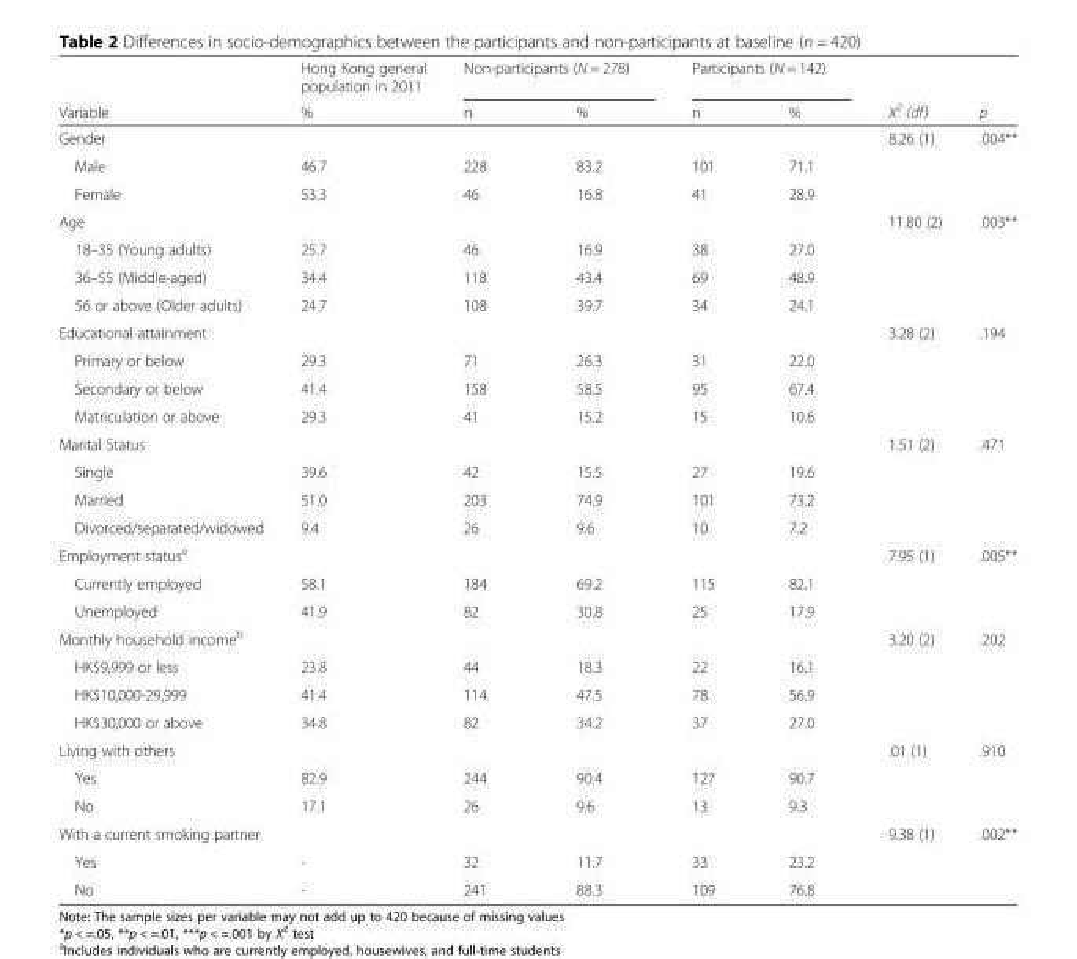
<table><thead><tr><td rowspan="2">Variable</td><td rowspan="2">Hong Kong general population in 2011 %</td><td colspan="2">Non-participants (N = 278)</td><td colspan="2">Participants (N = 142)</td><td rowspan="2">X<sup>2</sup> (df)</td><td rowspan="2">p</td></tr><tr><td>n</td><td>%</td><td>n</td><td>%</td></tr></thead><tbody><tr><td>Gender</td><td></td><td></td><td></td><td></td><td></td><td>8.26 (1)</td><td>.004**</td></tr><tr><td>Male</td><td>46.7</td><td>228</td><td>83.2</td><td>101</td><td>71.1</td><td></td><td></td></tr><tr><td>Female</td><td>53.3</td><td>46</td><td>16.8</td><td>41</td><td>28.9</td><td></td><td></td></tr><tr><td>Age</td><td></td><td></td><td></td><td></td><td></td><td>11.80 (2)</td><td>.003**</td></tr><tr><td>18–35 (Young adults)</td><td>25.7</td><td>46</td><td>16.9</td><td>38</td><td>27.0</td><td></td><td></td></tr><tr><td>36–55 (Middle-aged)</td><td>34.4</td><td>118</td><td>43.4</td><td>69</td><td>48.9</td><td></td><td></td></tr><tr><td>56 or above (Older adults)</td><td>24.7</td><td>108</td><td>39.7</td><td>34</td><td>24.1</td><td></td><td></td></tr><tr><td>Educational attainment</td><td></td><td></td><td></td><td></td><td></td><td>3.28 (2)</td><td>.194</td></tr><tr><td>Primary or below</td><td>29.3</td><td>71</td><td>26.3</td><td>31</td><td>22.0</td><td></td><td></td></tr><tr><td>Secondary or below</td><td>41.4</td><td>158</td><td>58.5</td><td>95</td><td>67.4</td><td></td><td></td></tr><tr><td>Matriculation or above</td><td>29.3</td><td>41</td><td>15.2</td><td>15</td><td>10.6</td><td></td><td></td></tr><tr><td>Marital Status</td><td></td><td></td><td></td><td></td><td></td><td>1.51 (2)</td><td>.471</td></tr><tr><td>Single</td><td>39.6</td><td>42</td><td>15.5</td><td>27</td><td>19.6</td><td></td><td></td></tr><tr><td>Married</td><td>51.0</td><td>203</td><td>74.9</td><td>101</td><td>73.2</td><td></td><td></td></tr><tr><td>Divorced/separated/widowed</td><td>9.4</td><td>26</td><td>9.6</td><td>10</td><td>7.2</td><td></td><td></td></tr><tr><td>Employment status<sup>a</sup></td><td></td><td></td><td></td><td></td><td></td><td>7.95 (1)</td><td>.005**</td></tr><tr><td>Currently employed</td><td>58.1</td><td>184</td><td>69.2</td><td>115</td><td>82.1</td><td></td><td></td></tr><tr><td>Unemployed</td><td>41.9</td><td>82</td><td>30.8</td><td>25</td><td>17.9</td><td></td><td></td></tr><tr><td>Monthly household income<sup>b</sup></td><td></td><td></td><td></td><td></td><td></td><td>3.20 (2)</td><td>.202</td></tr><tr><td>HK$9,999 or less</td><td>23.8</td><td>44</td><td>18.3</td><td>22</td><td>16.1</td><td></td><td></td></tr><tr><td>HK$10,000-29,999</td><td>41.4</td><td>114</td><td>47.5</td><td>78</td><td>56.9</td><td></td><td></td></tr><tr><td>HK$30,000 or above</td><td>34.8</td><td>82</td><td>34.2</td><td>37</td><td>27.0</td><td></td><td></td></tr><tr><td>Living with others</td><td></td><td></td><td></td><td></td><td></td><td>.01 (1)</td><td>.910</td></tr><tr><td>Yes</td><td>82.9</td><td>244</td><td>90.4</td><td>127</td><td>90.7</td><td></td><td></td></tr><tr><td>No</td><td>17.1</td><td>26</td><td>9.6</td><td>13</td><td>9.3</td><td></td><td></td></tr><tr><td>With a current smoking partner</td><td></td><td></td><td></td><td></td><td></td><td>9.38 (1)</td><td>.002**</td></tr><tr><td>Yes</td><td>-</td><td>32</td><td>11.7</td><td>33</td><td>23.2</td><td></td><td></td></tr><tr><td>No</td><td>-</td><td>241</td><td>88.3</td><td>109</td><td>76.8</td><td></td><td></td></tr></tbody></table>